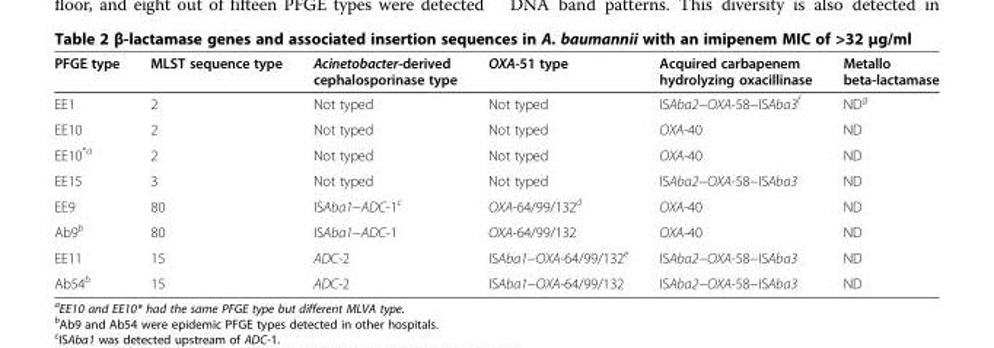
<table><thead><tr><td>PFGE type</td><td>MLST sequence type</td><td>Acinetobacter-derived cephalosporinase type</td><td>OXA-51 type</td><td>Acquired carbapenem hydrolyzing oxacillinase</td><td>Metallo beta-lactamase</td></tr></thead><tbody><tr><td>EE1</td><td>2</td><td>Not typed</td><td>Not typed</td><td>ISAba2−OXA-58−ISAba3<sup>f</sup></td><td>ND<sup>g</sup></td></tr><tr><td>EE10</td><td>2</td><td>Not typed</td><td>Not typed</td><td>OXA-40</td><td>ND</td></tr><tr><td>EE10<sup>*a</sup></td><td>2</td><td>Not typed</td><td>Not typed</td><td>OXA-40</td><td>ND</td></tr><tr><td>EE15</td><td>3</td><td>Not typed</td><td>Not typed</td><td>ISAba2−OXA-58−ISAba3</td><td>ND</td></tr><tr><td>EE9</td><td>80</td><td>ISAba1−ADC-1<sup>c</sup></td><td>OXA-64/99/132<sup>d</sup></td><td>OXA-40</td><td>ND</td></tr><tr><td>Ab9<sup>b</sup></td><td>80</td><td>ISAba1−ADC-1</td><td>OXA-64/99/132</td><td>OXA-40</td><td>ND</td></tr><tr><td>EE11</td><td>15</td><td>ADC-2</td><td>ISAba1−OXA-64/99/132<sup>e</sup></td><td>ISAba2−OXA-58−ISAba3</td><td>ND</td></tr><tr><td>Ab54<sup>b</sup></td><td>15</td><td>ADC-2</td><td>ISAba1−OXA-64/99/132</td><td>ISAba2−OXA-58−ISAba3</td><td>ND</td></tr></tbody></table>